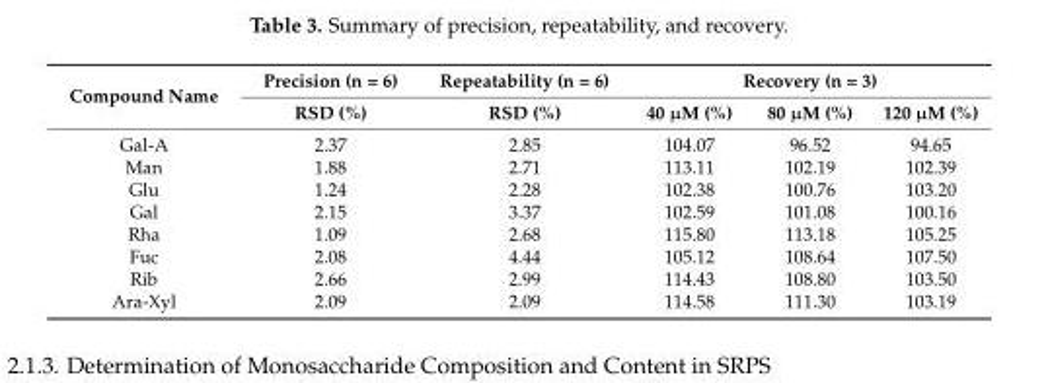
<table><thead><tr><td rowspan="2">Compound Name</td><td rowspan="2">Precision (n = 6) RSD (%)</td><td rowspan="2">Repeatability (n = 6) RSD (%)</td><td colspan="3">Recovery (n = 3)</td></tr><tr><td>40 µM (%)</td><td>80 µM (%)</td><td>120 µM (%)</td></tr></thead><tbody><tr><td>Gal-A</td><td>2.37</td><td>2.85</td><td>104.07</td><td>96.52</td><td>94.65</td></tr><tr><td>Man</td><td>1.88</td><td>2.71</td><td>113.11</td><td>102.19</td><td>102.39</td></tr><tr><td>Glu</td><td>1.24</td><td>2.28</td><td>102.38</td><td>100.76</td><td>103.20</td></tr><tr><td>Gal</td><td>2.15</td><td>3.37</td><td>102.59</td><td>101.08</td><td>100.16</td></tr><tr><td>Rha</td><td>1.09</td><td>2.68</td><td>115.80</td><td>113.18</td><td>105.25</td></tr><tr><td>Fuc</td><td>2.08</td><td>4.44</td><td>105.12</td><td>108.64</td><td>107.50</td></tr><tr><td>Rib</td><td>2.66</td><td>2.99</td><td>114.43</td><td>108.80</td><td>103.50</td></tr><tr><td>Ara-Xyl</td><td>2.09</td><td>2.09</td><td>114.58</td><td>111.30</td><td>103.19</td></tr></tbody></table>